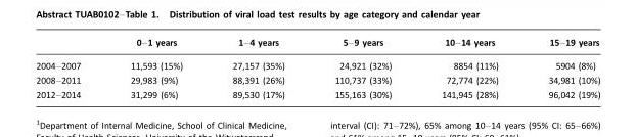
<table><thead><tr><td></td><td>0–1 years</td><td>1–4 years</td><td>5–9 years</td><td>10–14 years</td><td>15–19 years</td></tr></thead><tbody><tr><td>2004–2007</td><td>11,593 (15%)</td><td>27,157 (35%)</td><td>24,921 (32%)</td><td>8854 (11%)</td><td>5904 (8%)</td></tr><tr><td>2008–2011</td><td>29,983 (9%)</td><td>88,391 (26%)</td><td>110,737 (33%)</td><td>72,774 (22%)</td><td>34,981 (10%)</td></tr><tr><td>2012–2014</td><td>31,299 (6%)</td><td>89,530 (17%)</td><td>155,163 (30%)</td><td>141,945 (28%)</td><td>96,042 (19%)</td></tr></tbody></table>